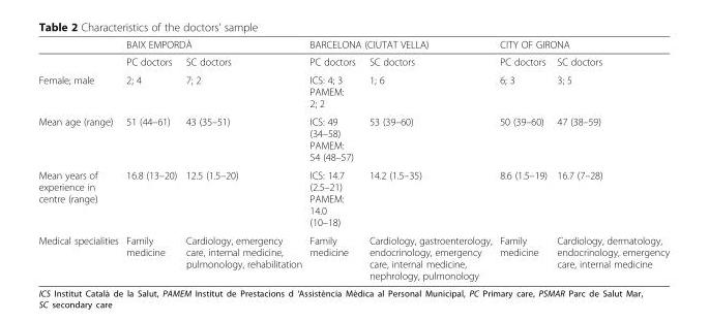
<table><thead><tr><td rowspan="2"></td><td colspan="2">BAIX EMPORDÀ</td><td colspan="2">BARCELONA (CIUTAT VELLA)</td><td colspan="2">CITY OF GIRONA</td></tr><tr><td>PC doctors</td><td>SC doctors</td><td>PC doctors</td><td>SC doctors</td><td>PC doctors</td><td>SC doctors</td></tr></thead><tbody><tr><td>Female; male</td><td>2; 4</td><td>7; 2</td><td>ICS: 4; 3 PAMEM: 2; 2</td><td>1; 6</td><td>6; 3</td><td>3; 5</td></tr><tr><td>Mean age (range)</td><td>51 (44–61)</td><td>43 (35–51)</td><td>ICS: 49 (34–58) PAMEM: 54 (48–57)</td><td>53 (39–60)</td><td>50 (39–60)</td><td>47 (38–59)</td></tr><tr><td>Mean years of experience in centre (range)</td><td>16.8 (13–20)</td><td>12.5 (1.5–20)</td><td>ICS: 14.7 (2.5–21) PAMEM: 14.0 (10–18)</td><td>14.2 (1.5–35)</td><td>8.6 (1.5–19)</td><td>16.7 (7–28)</td></tr><tr><td>Medical specialities</td><td>Family medicine</td><td>Cardiology, emergency care, internal medicine, pulmonology, rehabilitation</td><td>Family medicine</td><td>Cardiology, gastroenterology, endocrinology, emergency care, internal medicine, nephrology, pulmonology</td><td>Family medicine</td><td>Cardiology, dermatology, endocrinology, emergency care, internal medicine</td></tr></tbody></table>